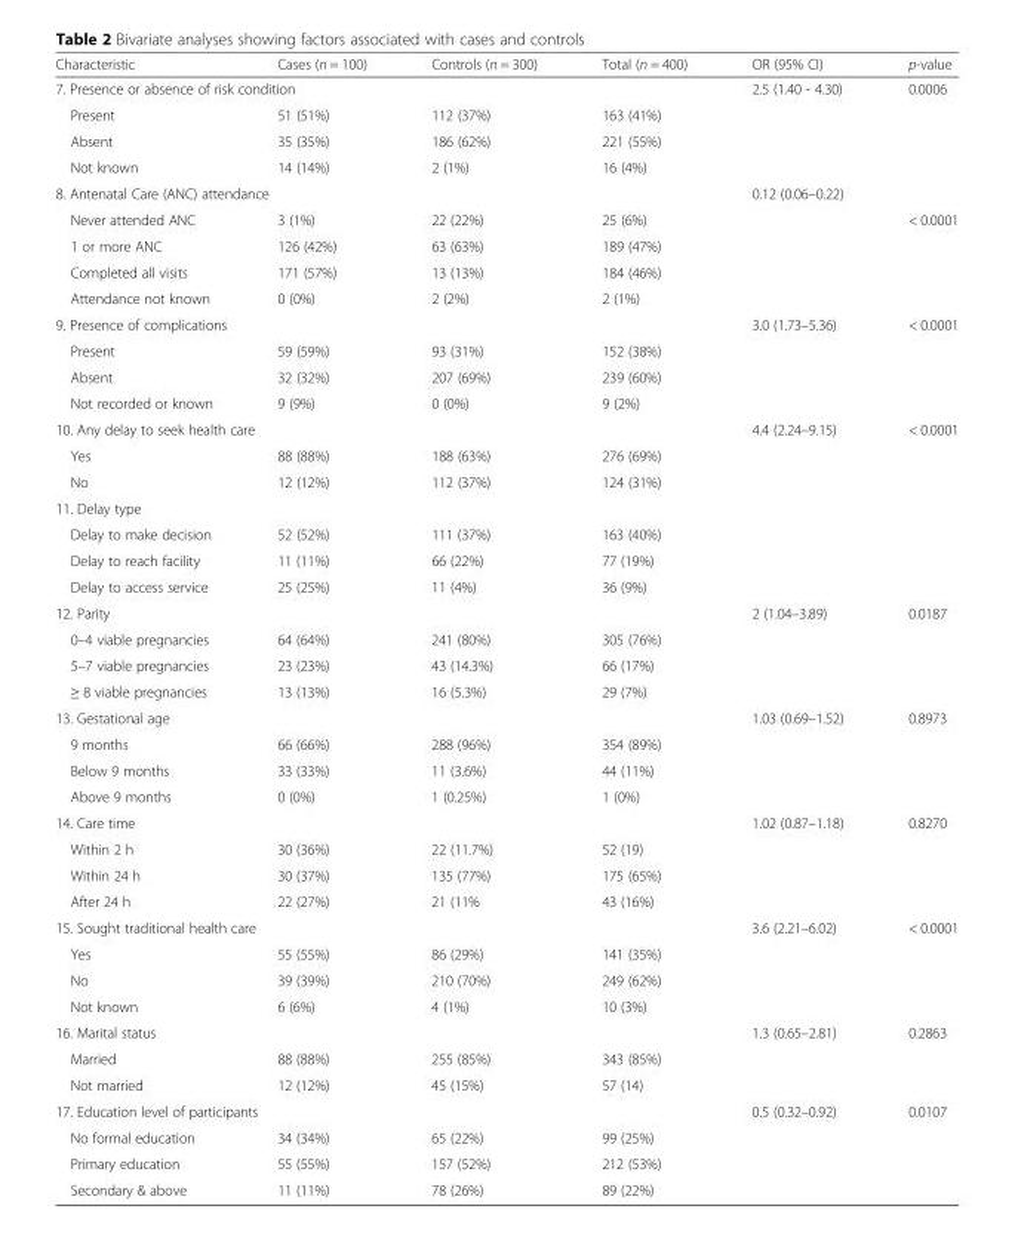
<table><thead><tr><td>Characteristic</td><td>Cases (n = 100)</td><td>Controls (n = 300)</td><td>Total (n = 400)</td><td>OR (95% CI)</td><td>p-value</td></tr></thead><tbody><tr><td colspan="4">7. Presence or absence of risk condition</td><td>2.5 (1.40 - 4.30)</td><td>0.0006</td></tr><tr><td>Present</td><td>51 (51%)</td><td>112 (37%)</td><td>163 (41%)</td><td></td><td></td></tr><tr><td>Absent</td><td>35 (35%)</td><td>186 (62%)</td><td>221 (55%)</td><td></td><td></td></tr><tr><td>Not known</td><td>14 (14%)</td><td>2 (1%)</td><td>16 (4%)</td><td></td><td></td></tr><tr><td colspan="4">8. Antenatal Care (ANC) attendance</td><td>0.12 (0.06–0.22)</td><td></td></tr><tr><td>Never attended ANC</td><td>3 (1%)</td><td>22 (22%)</td><td>25 (6%)</td><td></td><td>&lt; 0.0001</td></tr><tr><td>1 or more ANC</td><td>126 (42%)</td><td>63 (63%)</td><td>189 (47%)</td><td></td><td></td></tr><tr><td>Completed all visits</td><td>171 (57%)</td><td>13 (13%)</td><td>184 (46%)</td><td></td><td></td></tr><tr><td>Attendance not known</td><td>0 (0%)</td><td>2 (2%)</td><td>2 (1%)</td><td></td><td></td></tr><tr><td colspan="4">9. Presence of complications</td><td>3.0 (1.73–5.36)</td><td>&lt; 0.0001</td></tr><tr><td>Present</td><td>59 (59%)</td><td>93 (31%)</td><td>152 (38%)</td><td></td><td></td></tr><tr><td>Absent</td><td>32 (32%)</td><td>207 (69%)</td><td>239 (60%)</td><td></td><td></td></tr><tr><td>Not recorded or known</td><td>9 (9%)</td><td>0 (0%)</td><td>9 (2%)</td><td></td><td></td></tr><tr><td colspan="4">10. Any delay to seek health care</td><td>4.4 (2.24–9.15)</td><td>&lt; 0.0001</td></tr><tr><td>Yes</td><td>88 (88%)</td><td>188 (63%)</td><td>276 (69%)</td><td></td><td></td></tr><tr><td>No</td><td>12 (12%)</td><td>112 (37%)</td><td>124 (31%)</td><td></td><td></td></tr><tr><td colspan="6">11. Delay type</td></tr><tr><td>Delay to make decision</td><td>52 (52%)</td><td>111 (37%)</td><td>163 (40%)</td><td></td><td></td></tr><tr><td>Delay to reach facility</td><td>11 (11%)</td><td>66 (22%)</td><td>77 (19%)</td><td></td><td></td></tr><tr><td>Delay to access service</td><td>25 (25%)</td><td>11 (4%)</td><td>36 (9%)</td><td></td><td></td></tr><tr><td colspan="4">12. Parity</td><td>2 (1.04–3.89)</td><td>0.0187</td></tr><tr><td>0–4 viable pregnancies</td><td>64 (64%)</td><td>241 (80%)</td><td>305 (76%)</td><td></td><td></td></tr><tr><td>5–7 viable pregnancies</td><td>23 (23%)</td><td>43 (14.3%)</td><td>66 (17%)</td><td></td><td></td></tr><tr><td>≥ 8 viable pregnancies</td><td>13 (13%)</td><td>16 (5.3%)</td><td>29 (7%)</td><td></td><td></td></tr><tr><td colspan="4">13. Gestational age</td><td>1.03 (0.69–1.52)</td><td>0.8973</td></tr><tr><td>9 months</td><td>66 (66%)</td><td>288 (96%)</td><td>354 (89%)</td><td></td><td></td></tr><tr><td>Below 9 months</td><td>33 (33%)</td><td>11 (3.6%)</td><td>44 (11%)</td><td></td><td></td></tr><tr><td>Above 9 months</td><td>0 (0%)</td><td>1 (0.25%)</td><td>1 (0%)</td><td></td><td></td></tr><tr><td colspan="4">14. Care time</td><td>1.02 (0.87–1.18)</td><td>0.8270</td></tr><tr><td>Within 2 h</td><td>30 (36%)</td><td>22 (11.7%)</td><td>52 (19)</td><td></td><td></td></tr><tr><td>Within 24 h</td><td>30 (37%)</td><td>135 (77%)</td><td>175 (65%)</td><td></td><td></td></tr><tr><td>After 24 h</td><td>22 (27%)</td><td>21 (11%</td><td>43 (16%)</td><td></td><td></td></tr><tr><td colspan="4">15. Sought traditional health care</td><td>3.6 (2.21–6.02)</td><td>&lt; 0.0001</td></tr><tr><td>Yes</td><td>55 (55%)</td><td>86 (29%)</td><td>141 (35%)</td><td></td><td></td></tr><tr><td>No</td><td>39 (39%)</td><td>210 (70%)</td><td>249 (62%)</td><td></td><td></td></tr><tr><td>Not known</td><td>6 (6%)</td><td>4 (1%)</td><td>10 (3%)</td><td></td><td></td></tr><tr><td colspan="4">16. Marital status</td><td>1.3 (0.65–2.81)</td><td>0.2863</td></tr><tr><td>Married</td><td>88 (88%)</td><td>255 (85%)</td><td>343 (85%)</td><td></td><td></td></tr><tr><td>Not married</td><td>12 (12%)</td><td>45 (15%)</td><td>57 (14)</td><td></td><td></td></tr><tr><td colspan="4">17. Education level of participants</td><td>0.5 (0.32–0.92)</td><td>0.0107</td></tr><tr><td>No formal education</td><td>34 (34%)</td><td>65 (22%)</td><td>99 (25%)</td><td></td><td></td></tr><tr><td>Primary education</td><td>55 (55%)</td><td>157 (52%)</td><td>212 (53%)</td><td></td><td></td></tr><tr><td>Secondary &amp; above</td><td>11 (11%)</td><td>78 (26%)</td><td>89 (22%)</td><td></td><td></td></tr></tbody></table>